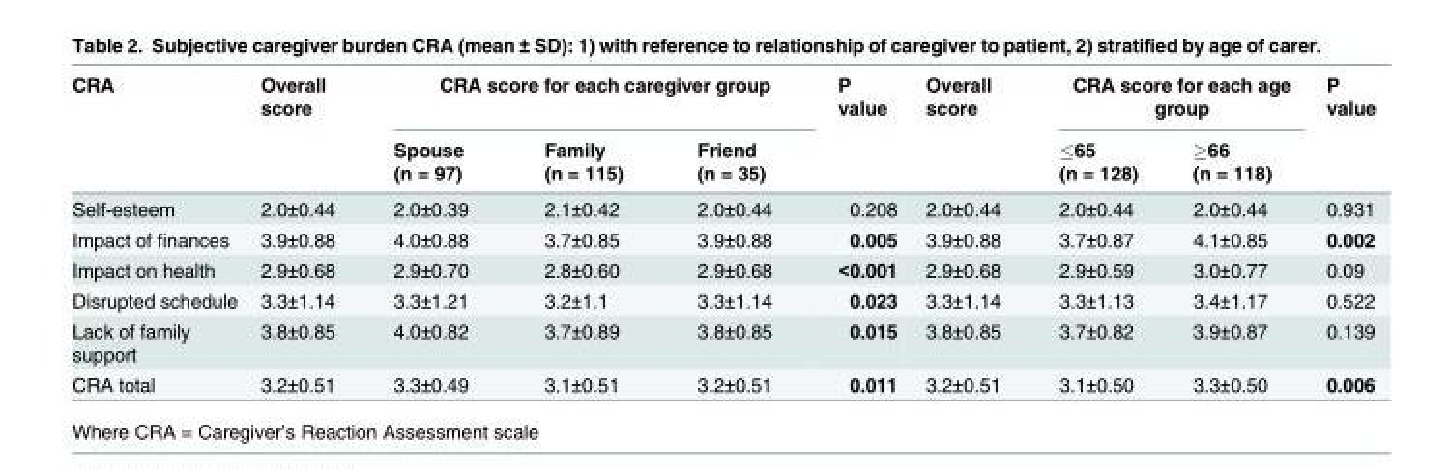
<table><thead><tr><td rowspan="2">CRA</td><td rowspan="2">Overall score</td><td colspan="3">CRA score for each caregiver group</td><td rowspan="2">P value</td><td rowspan="2">Overall score</td><td colspan="2">CRA score for each age group</td><td rowspan="2">P value</td></tr><tr><td>Spouse (n = 97)</td><td>Family (n = 115)</td><td>Friend (n = 35)</td><td>≤65 (n = 128)</td><td>≥66 (n = 118)</td></tr></thead><tbody><tr><td>Self-esteem</td><td>2.0±0.44</td><td>2.0±0.39</td><td>2.1±0.42</td><td>2.0±0.44</td><td>0.208</td><td>2.0±0.44</td><td>2.0±0.44</td><td>2.0±0.44</td><td>0.931</td></tr><tr><td>Impact of finances</td><td>3.9±0.88</td><td>4.0±0.88</td><td>3.7±0.85</td><td>3.9±0.88</td><td>0.005</td><td>3.9±0.88</td><td>3.7±0.87</td><td>4.1±0.85</td><td>0.002</td></tr><tr><td>Impact on health</td><td>2.9±0.68</td><td>2.9±0.70</td><td>2.8±0.60</td><td>2.9±0.68</td><td>&lt;0.001</td><td>2.9±0.68</td><td>2.9±0.59</td><td>3.0±0.77</td><td>0.09</td></tr><tr><td>Disrupted schedule</td><td>3.3±1.14</td><td>3.3±1.21</td><td>3.2±1.1</td><td>3.3±1.14</td><td>0.023</td><td>3.3±1.14</td><td>3.3±1.13</td><td>3.4±1.17</td><td>0.522</td></tr><tr><td>Lack of family support</td><td>3.8±0.85</td><td>4.0±0.82</td><td>3.7±0.89</td><td>3.8±0.85</td><td>0.015</td><td>3.8±0.85</td><td>3.7±0.82</td><td>3.9±0.87</td><td>0.139</td></tr><tr><td>CRA total</td><td>3.2±0.51</td><td>3.3±0.49</td><td>3.1±0.51</td><td>3.2±0.51</td><td>0.011</td><td>3.2±0.51</td><td>3.1±0.50</td><td>3.3±0.50</td><td>0.006</td></tr></tbody></table>